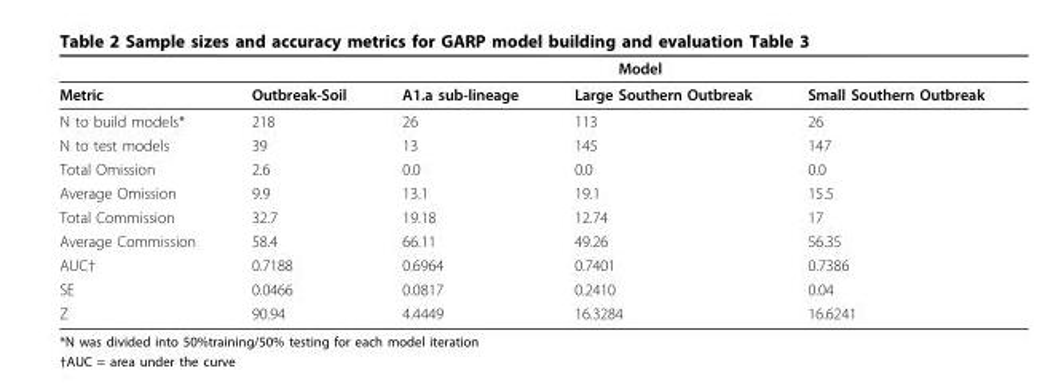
<table><thead><tr><td rowspan="2">Metric</td><td colspan="4">Model</td></tr><tr><td>Outbreak-Soil</td><td>A1.a sub-lineage</td><td>Large Southern Outbreak</td><td>Small Southern Outbreak</td></tr></thead><tbody><tr><td>N to build models*</td><td>218</td><td>26</td><td>113</td><td>26</td></tr><tr><td>N to test models</td><td>39</td><td>13</td><td>145</td><td>147</td></tr><tr><td>Total Omission</td><td>2.6</td><td>0.0</td><td>0.0</td><td>0.0</td></tr><tr><td>Average Omission</td><td>9.9</td><td>13.1</td><td>19.1</td><td>15.5</td></tr><tr><td>Total Commission</td><td>32.7</td><td>19.18</td><td>12.74</td><td>17</td></tr><tr><td>Average Commission</td><td>58.4</td><td>66.11</td><td>49.26</td><td>56.35</td></tr><tr><td>AUC†</td><td>0.7188</td><td>0.6964</td><td>0.7401</td><td>0.7386</td></tr><tr><td>SE</td><td>0.0466</td><td>0.0817</td><td>0.2410</td><td>0.04</td></tr><tr><td>Z</td><td>90.94</td><td>4.4449</td><td>16.3284</td><td>16.6241</td></tr></tbody></table>